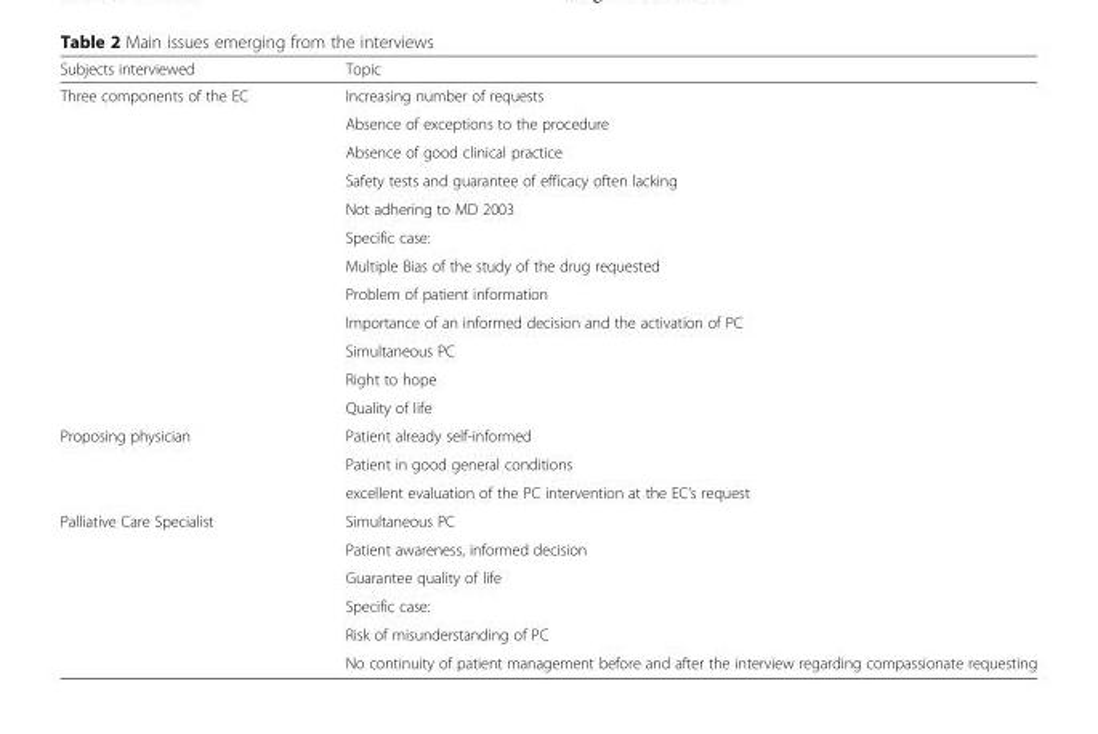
<table><thead><tr><td>Subjects interviewed</td><td>Topic</td></tr></thead><tbody><tr><td rowspan="12">Three components of the EC</td><td>Increasing number of requests</td></tr><tr><td>Absence of exceptions to the procedure</td></tr><tr><td>Absence of good clinical practice</td></tr><tr><td>Safety tests and guarantee of efficacy often lacking</td></tr><tr><td>Not adhering to MD 2003</td></tr><tr><td>Specific case:</td></tr><tr><td>Multiple Bias of the study of the drug requested</td></tr><tr><td>Problem of patient information</td></tr><tr><td>Importance of an informed decision and the activation of PC</td></tr><tr><td>Simultaneous PC</td></tr><tr><td>Right to hope</td></tr><tr><td>Quality of life</td></tr><tr><td rowspan="3">Proposing physician</td><td>Patient already self-informed</td></tr><tr><td>Patient in good general conditions</td></tr><tr><td>excellent evaluation of the PC intervention at the EC’s request</td></tr><tr><td rowspan="6">Palliative Care Specialist</td><td>Simultaneous PC</td></tr><tr><td>Patient awareness, informed decision</td></tr><tr><td>Guarantee quality of life</td></tr><tr><td>Specific case:</td></tr><tr><td>Risk of misunderstanding of PC</td></tr><tr><td>No continuity of patient management before and after the interview regarding compassionate requesting</td></tr></tbody></table>